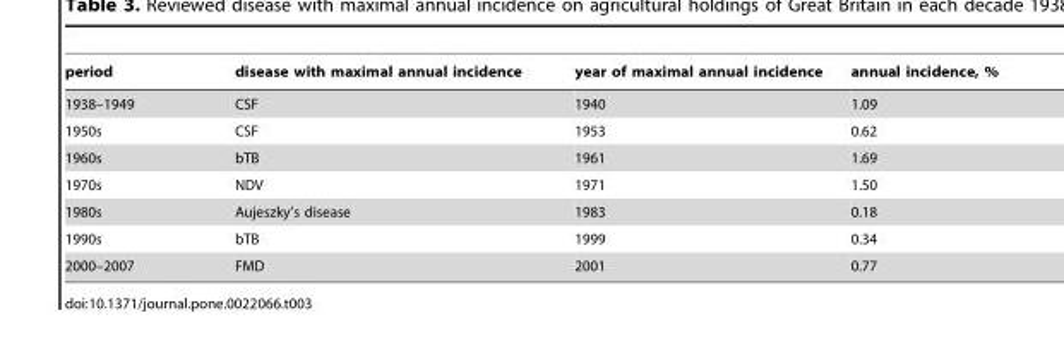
<table><thead><tr><td>period</td><td>disease with maximal annual incidence</td><td>year of maximal annual incidence</td><td>annual incidence, %</td></tr></thead><tbody><tr><td>1938–1949</td><td>CSF</td><td>1940</td><td>1.09</td></tr><tr><td>1950s</td><td>CSF</td><td>1953</td><td>0.62</td></tr><tr><td>1960s</td><td>bTB</td><td>1961</td><td>1.69</td></tr><tr><td>1970s</td><td>NDV</td><td>1971</td><td>1.50</td></tr><tr><td>1980s</td><td>Aujeszky’s disease</td><td>1983</td><td>0.18</td></tr><tr><td>1990s</td><td>bTB</td><td>1999</td><td>0.34</td></tr><tr><td>2000–2007</td><td>FMD</td><td>2001</td><td>0.77</td></tr></tbody></table>